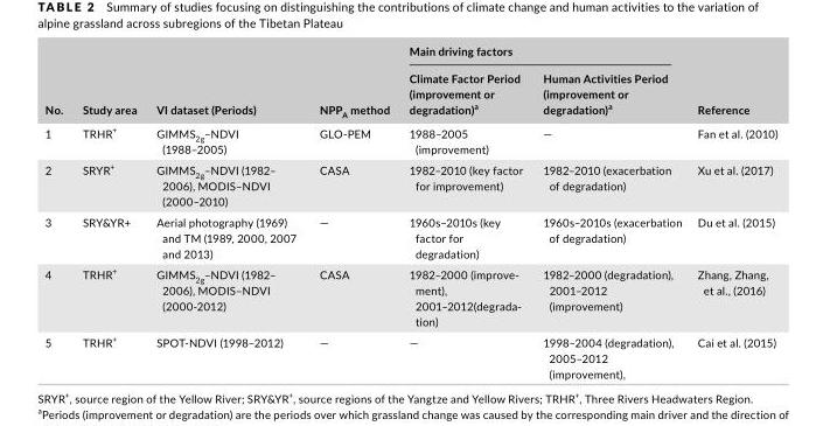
<table><thead><tr><td rowspan="2">No.</td><td rowspan="2">Study area</td><td rowspan="2">VI dataset (Periods)</td><td rowspan="2">NPP<sub>A</sub> method</td><td colspan="2">Main driving factors</td><td rowspan="2">Reference</td></tr><tr><td>Climate Factor Period (improvement or degradation)<sup>a</sup></td><td>Human Activities Period (improvement or degradation)<sup>a</sup></td></tr></thead><tbody><tr><td>1</td><td>TRHR<sup>+</sup></td><td>GIMMS<sub>2g</sub>–NDVI (1988–2005)</td><td>GLO- PEM</td><td>1988–2005 (improvement)</td><td>—</td><td>Fan et al. (2010)</td></tr><tr><td>2</td><td>SRYR<sup>+</sup></td><td>GIMMS<sub>2g</sub>–NDVI (1982– 2006), MODIS–NDVI (2000–2010)</td><td>CASA</td><td>1982–2010 (key factor for improvement)</td><td>1982–2010 (exacerbation of degradation)</td><td>Xu et al. (2017)</td></tr><tr><td>3</td><td>SRY&amp;YR+</td><td>Aerial photography (1969) and TM (1989, 2000, 2007 and 2013)</td><td>—</td><td>1960s–2010s (key factor for degradation)</td><td>1960s–2010s (exacerbation of degradation)</td><td>Du et al. (2015)</td></tr><tr><td>4</td><td>TRHR<sup>+</sup></td><td>GIMMS<sub>2g</sub>–NDVI (1982– 2006), MODIS–NDVI (2000-2012)</td><td>CASA</td><td>1982–2000 (improve- ment), 2001–2012(degrada- tion)</td><td>1982–2000 (degradation), 2001–2012 (improvement)</td><td>Zhang, Zhang, et al., (2016)</td></tr><tr><td>5</td><td>TRHR<sup>+</sup></td><td>SPOT- NDVI (1998–2012)</td><td>—</td><td>—</td><td>1998–2004 (degradation), 2005–2012 (improvement),</td><td>Cai et al. (2015)</td></tr></tbody></table>